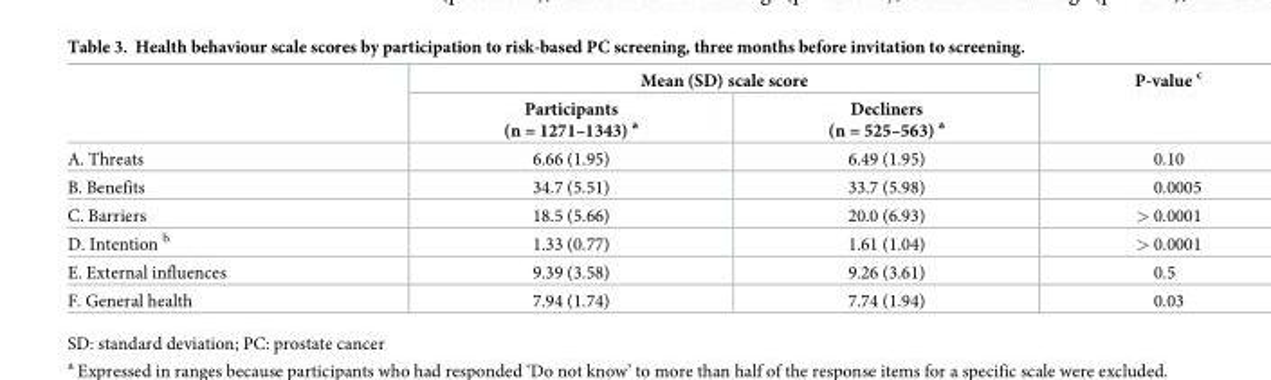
<table><thead><tr><td rowspan="2"></td><td colspan="2">Mean (SD) scale score</td><td rowspan="2">P-value <sup>c</sup></td></tr><tr><td>Participants (n = 1271–1343) <sup>a</sup></td><td>Decliners (n = 525–563) <sup>a</sup></td></tr></thead><tbody><tr><td>A. Threats</td><td>6.66 (1.95)</td><td>6.49 (1.95)</td><td>0.10</td></tr><tr><td>B. Benefits</td><td>34.7 (5.51)</td><td>33.7 (5.98)</td><td>0.0005</td></tr><tr><td>C. Barriers</td><td>18.5 (5.66)</td><td>20.0 (6.93)</td><td>&gt; 0.0001</td></tr><tr><td>D. Intention <sup>b</sup></td><td>1.33 (0.77)</td><td>1.61 (1.04)</td><td>&gt; 0.0001</td></tr><tr><td>E. External influences</td><td>9.39 (3.58)</td><td>9.26 (3.61)</td><td>0.5</td></tr><tr><td>F. General health</td><td>7.94 (1.74)</td><td>7.74 (1.94)</td><td>0.03</td></tr></tbody></table>